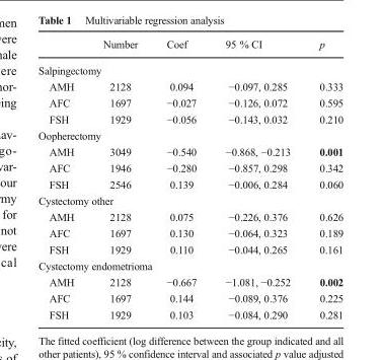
<table><thead><tr><td></td><td>Number</td><td>Coef</td><td>95 % CI</td><td>p</td></tr></thead><tbody><tr><td colspan="5">Salpingectomy</td></tr><tr><td>AMH</td><td>2128</td><td>0.094</td><td>−0.097, 0.285</td><td>0.333</td></tr><tr><td>AFC</td><td>1697</td><td>−0.027</td><td>−0.126, 0.072</td><td>0.595</td></tr><tr><td>FSH</td><td>1929</td><td>−0.056</td><td>−0.143, 0.032</td><td>0.210</td></tr><tr><td colspan="5">Oopherectomy</td></tr><tr><td>AMH</td><td>3049</td><td>−0.540</td><td>−0.868, −0.213</td><td>0.001</td></tr><tr><td>AFC</td><td>1946</td><td>−0.280</td><td>−0.857, 0.298</td><td>0.342</td></tr><tr><td>FSH</td><td>2546</td><td>0.139</td><td>−0.006, 0.284</td><td>0.060</td></tr><tr><td colspan="5">Cystectomy other</td></tr><tr><td>AMH</td><td>2128</td><td>0.075</td><td>−0.226, 0.376</td><td>0.626</td></tr><tr><td>AFC</td><td>1697</td><td>0.130</td><td>−0.064, 0.323</td><td>0.189</td></tr><tr><td>FSH</td><td>1929</td><td>0.110</td><td>−0.044, 0.265</td><td>0.161</td></tr><tr><td colspan="5">Cystectomy endometrioma</td></tr><tr><td>AMH</td><td>2128</td><td>−0.667</td><td>−1.081, −0.252</td><td>0.002</td></tr><tr><td>AFC</td><td>1697</td><td>0.144</td><td>−0.089, 0.376</td><td>0.225</td></tr><tr><td>FSH</td><td>1929</td><td>0.103</td><td>−0.084, 0.290</td><td>0.281</td></tr></tbody></table>